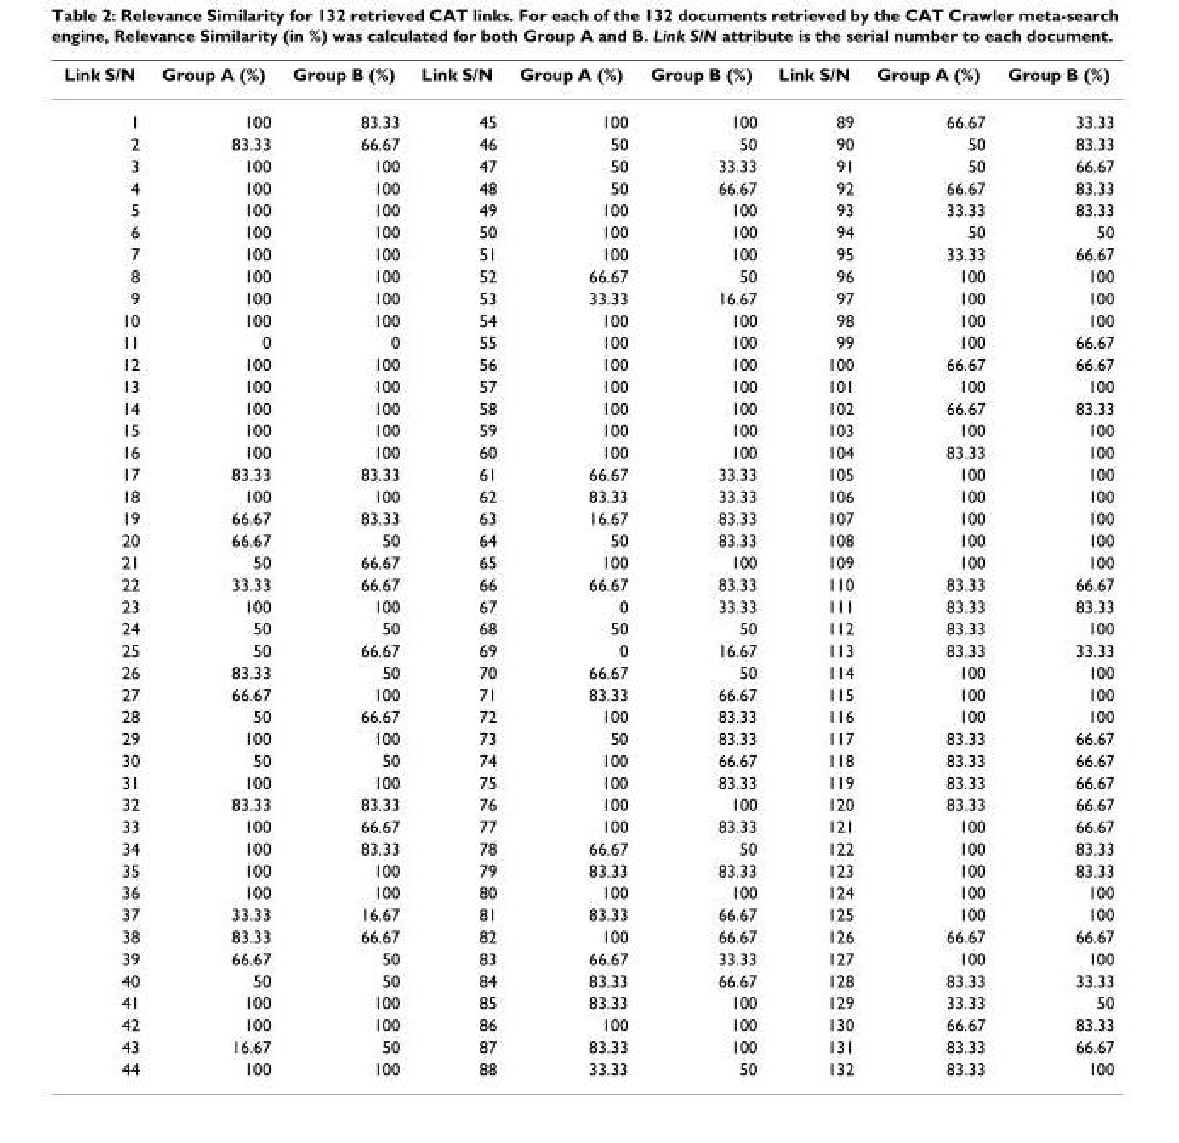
<table><thead><tr><td>Link S/N</td><td>Group A (%)</td><td>Group B (%)</td><td>Link S/N</td><td>Group A (%)</td><td>Group B (%)</td><td>Link S/N</td><td>Group A (%)</td><td>Group B (%)</td></tr></thead><tbody><tr><td>1</td><td>100</td><td>83.33</td><td>45</td><td>100</td><td>100</td><td>89</td><td>66.67</td><td>33.33</td></tr><tr><td>2</td><td>83.33</td><td>66.67</td><td>46</td><td>50</td><td>50</td><td>90</td><td>50</td><td>83.33</td></tr><tr><td>3</td><td>100</td><td>100</td><td>47</td><td>50</td><td>33.33</td><td>91</td><td>50</td><td>66.67</td></tr><tr><td>4</td><td>100</td><td>100</td><td>48</td><td>50</td><td>66.67</td><td>92</td><td>66.67</td><td>83.33</td></tr><tr><td>5</td><td>100</td><td>100</td><td>49</td><td>100</td><td>100</td><td>93</td><td>33.33</td><td>83.33</td></tr><tr><td>6</td><td>100</td><td>100</td><td>50</td><td>100</td><td>100</td><td>94</td><td>50</td><td>50</td></tr><tr><td>7</td><td>100</td><td>100</td><td>51</td><td>100</td><td>100</td><td>95</td><td>33.33</td><td>66.67</td></tr><tr><td>8</td><td>100</td><td>100</td><td>52</td><td>66.67</td><td>50</td><td>96</td><td>100</td><td>100</td></tr><tr><td>9</td><td>100</td><td>100</td><td>53</td><td>33.33</td><td>16.67</td><td>97</td><td>100</td><td>100</td></tr><tr><td>10</td><td>100</td><td>100</td><td>54</td><td>100</td><td>100</td><td>98</td><td>100</td><td>100</td></tr><tr><td>11</td><td>0</td><td>0</td><td>55</td><td>100</td><td>100</td><td>99</td><td>100</td><td>66.67</td></tr><tr><td>12</td><td>100</td><td>100</td><td>56</td><td>100</td><td>100</td><td>100</td><td>66.67</td><td>66.67</td></tr><tr><td>13</td><td>100</td><td>100</td><td>57</td><td>100</td><td>100</td><td>101</td><td>100</td><td>100</td></tr><tr><td>14</td><td>100</td><td>100</td><td>58</td><td>100</td><td>100</td><td>102</td><td>66.67</td><td>83.33</td></tr><tr><td>15</td><td>100</td><td>100</td><td>59</td><td>100</td><td>100</td><td>103</td><td>100</td><td>100</td></tr><tr><td>16</td><td>100</td><td>100</td><td>60</td><td>100</td><td>100</td><td>104</td><td>83.33</td><td>100</td></tr><tr><td>17</td><td>83.33</td><td>83.33</td><td>61</td><td>66.67</td><td>33.33</td><td>105</td><td>100</td><td>100</td></tr><tr><td>18</td><td>100</td><td>100</td><td>62</td><td>83.33</td><td>33.33</td><td>106</td><td>100</td><td>100</td></tr><tr><td>19</td><td>66.67</td><td>83.33</td><td>63</td><td>16.67</td><td>83.33</td><td>107</td><td>100</td><td>100</td></tr><tr><td>20</td><td>66.67</td><td>50</td><td>64</td><td>50</td><td>83.33</td><td>108</td><td>100</td><td>100</td></tr><tr><td>21</td><td>50</td><td>66.67</td><td>65</td><td>100</td><td>100</td><td>109</td><td>100</td><td>100</td></tr><tr><td>22</td><td>33.33</td><td>66.67</td><td>66</td><td>66.67</td><td>83.33</td><td>110</td><td>83.33</td><td>66.67</td></tr><tr><td>23</td><td>100</td><td>100</td><td>67</td><td>0</td><td>33.33</td><td>111</td><td>83.33</td><td>83.33</td></tr><tr><td>24</td><td>50</td><td>50</td><td>68</td><td>50</td><td>50</td><td>112</td><td>83.33</td><td>100</td></tr><tr><td>25</td><td>50</td><td>66.67</td><td>69</td><td>0</td><td>16.67</td><td>113</td><td>83.33</td><td>33.33</td></tr><tr><td>26</td><td>83.33</td><td>50</td><td>70</td><td>66.67</td><td>50</td><td>114</td><td>100</td><td>100</td></tr><tr><td>27</td><td>66.67</td><td>100</td><td>71</td><td>83.33</td><td>66.67</td><td>115</td><td>100</td><td>100</td></tr><tr><td>28</td><td>50</td><td>66.67</td><td>72</td><td>100</td><td>83.33</td><td>116</td><td>100</td><td>100</td></tr><tr><td>29</td><td>100</td><td>100</td><td>73</td><td>50</td><td>83.33</td><td>117</td><td>83.33</td><td>66.67</td></tr><tr><td>30</td><td>50</td><td>50</td><td>74</td><td>100</td><td>66.67</td><td>118</td><td>83.33</td><td>66.67</td></tr><tr><td>31</td><td>100</td><td>100</td><td>75</td><td>100</td><td>83.33</td><td>119</td><td>83.33</td><td>66.67</td></tr><tr><td>32</td><td>83.33</td><td>83.33</td><td>76</td><td>100</td><td>100</td><td>120</td><td>83.33</td><td>66.67</td></tr><tr><td>33</td><td>100</td><td>66.67</td><td>77</td><td>100</td><td>83.33</td><td>121</td><td>100</td><td>66.67</td></tr><tr><td>34</td><td>100</td><td>83.33</td><td>78</td><td>66.67</td><td>50</td><td>122</td><td>100</td><td>83.33</td></tr><tr><td>35</td><td>100</td><td>100</td><td>79</td><td>83.33</td><td>83.33</td><td>123</td><td>100</td><td>83.33</td></tr><tr><td>36</td><td>100</td><td>100</td><td>80</td><td>100</td><td>100</td><td>124</td><td>100</td><td>100</td></tr><tr><td>37</td><td>33.33</td><td>16.67</td><td>81</td><td>83.33</td><td>66.67</td><td>125</td><td>100</td><td>100</td></tr><tr><td>38</td><td>83.33</td><td>66.67</td><td>82</td><td>100</td><td>66.67</td><td>126</td><td>66.67</td><td>66.67</td></tr><tr><td>39</td><td>66.67</td><td>50</td><td>83</td><td>66.67</td><td>33.33</td><td>127</td><td>100</td><td>100</td></tr><tr><td>40</td><td>50</td><td>50</td><td>84</td><td>83.33</td><td>66.67</td><td>128</td><td>83.33</td><td>33.33</td></tr><tr><td>41</td><td>100</td><td>100</td><td>85</td><td>83.33</td><td>100</td><td>129</td><td>33.33</td><td>50</td></tr><tr><td>42</td><td>100</td><td>100</td><td>86</td><td>100</td><td>100</td><td>130</td><td>66.67</td><td>83.33</td></tr><tr><td>43</td><td>16.67</td><td>50</td><td>87</td><td>83.33</td><td>100</td><td>131</td><td>83.33</td><td>66.67</td></tr><tr><td>44</td><td>100</td><td>100</td><td>88</td><td>33.33</td><td>50</td><td>132</td><td>83.33</td><td>100</td></tr></tbody></table>